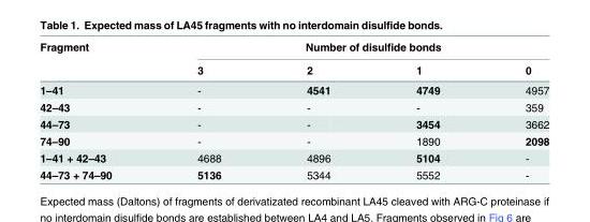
<table><thead><tr><td rowspan="2">Fragment</td><td colspan="4">Number of disulfide bonds</td></tr><tr><td>3</td><td>2</td><td>1</td><td>0</td></tr></thead><tbody><tr><td>1–41</td><td>-</td><td>4541</td><td>4749</td><td>4957</td></tr><tr><td>42–43</td><td>-</td><td>-</td><td>-</td><td>359</td></tr><tr><td>44–73</td><td>-</td><td>-</td><td>3454</td><td>3662</td></tr><tr><td>74–90</td><td>-</td><td>-</td><td>1890</td><td>2098</td></tr><tr><td>1–41 + 42–43</td><td>4688</td><td>4896</td><td>5104</td><td>-</td></tr><tr><td>44–73 + 74–90</td><td>5136</td><td>5344</td><td>5552</td><td>-</td></tr></tbody></table>